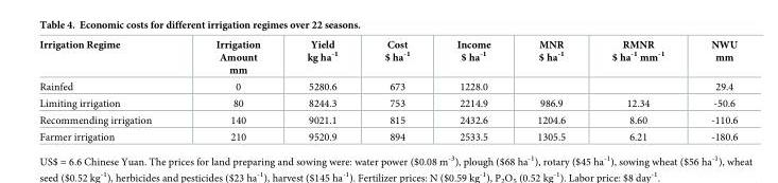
<table><thead><tr><td>Irrigation Regime</td><td>Irrigation Amount mm</td><td>Yield kg ha<sup>-1</sup></td><td>Cost $ ha<sup>-1</sup></td><td>Income $ ha<sup>-1</sup></td><td>MNR $ ha<sup>-1</sup></td><td>RMNR $ ha<sup>-1</sup> mm<sup>-1</sup></td><td>NWU mm</td></tr></thead><tbody><tr><td>Rainfed</td><td>0</td><td>5280.6</td><td>673</td><td>1228.0</td><td></td><td></td><td>29.4</td></tr><tr><td>Limiting irrigation</td><td>80</td><td>8244.3</td><td>753</td><td>2214.9</td><td>986.9</td><td>12.34</td><td>-50.6</td></tr><tr><td>Recommending irrigation</td><td>140</td><td>9021.1</td><td>815</td><td>2432.6</td><td>1204.6</td><td>8.60</td><td>-110.6</td></tr><tr><td>Farmer irrigation</td><td>210</td><td>9520.9</td><td>894</td><td>2533.5</td><td>1305.5</td><td>6.21</td><td>-180.6</td></tr></tbody></table>